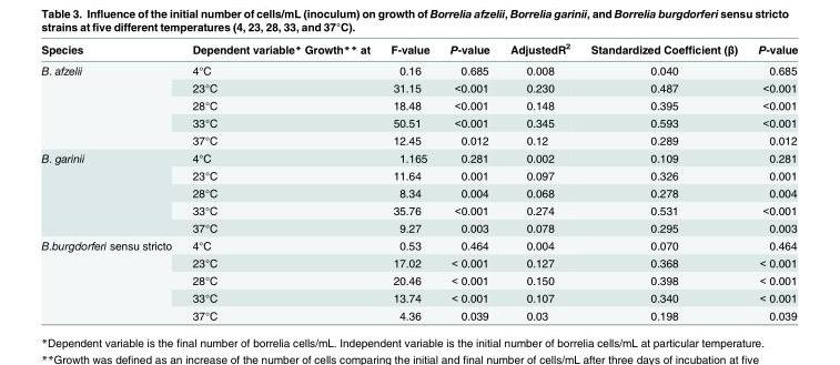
<table><thead><tr><td>Species</td><td>Dependent variable* Growth** at</td><td>F-value</td><td>P-value</td><td>AdjustedR<sup>2</sup></td><td>Standardized Coefficient (β)</td><td>P-value</td></tr></thead><tbody><tr><td rowspan="5">B. afzelii</td><td>4°C</td><td>0.16</td><td>0.685</td><td>0.008</td><td>0.040</td><td>0.685</td></tr><tr><td>23°C</td><td>31.15</td><td>&lt;0.001</td><td>0.230</td><td>0.487</td><td>&lt;0.001</td></tr><tr><td>28°C</td><td>18.48</td><td>&lt;0.001</td><td>0.148</td><td>0.395</td><td>&lt;0.001</td></tr><tr><td>33°C</td><td>50.51</td><td>&lt;0.001</td><td>0.345</td><td>0.593</td><td>&lt;0.001</td></tr><tr><td>37°C</td><td>12.45</td><td>0.012</td><td>0.12</td><td>0.289</td><td>0.012</td></tr><tr><td rowspan="5">B. garinii</td><td>4°C</td><td>1.165</td><td>0.281</td><td>0.002</td><td>0.109</td><td>0.281</td></tr><tr><td>23°C</td><td>11.64</td><td>0.001</td><td>0.097</td><td>0.326</td><td>0.001</td></tr><tr><td>28°C</td><td>8.34</td><td>0.004</td><td>0.068</td><td>0.278</td><td>0.004</td></tr><tr><td>33°C</td><td>35.76</td><td>&lt;0.001</td><td>0.274</td><td>0.531</td><td>&lt;0.001</td></tr><tr><td>37°C</td><td>9.27</td><td>0.003</td><td>0.078</td><td>0.295</td><td>0.003</td></tr><tr><td rowspan="5">B.burgdorferi sensu stricto</td><td>4°C</td><td>0.53</td><td>0.464</td><td>0.004</td><td>0.070</td><td>0.464</td></tr><tr><td>23°C</td><td>17.02</td><td>&lt; 0.001</td><td>0.127</td><td>0.368</td><td>&lt; 0.001</td></tr><tr><td>28°C</td><td>20.46</td><td>&lt; 0.001</td><td>0.150</td><td>0.398</td><td>&lt; 0.001</td></tr><tr><td>33°C</td><td>13.74</td><td>&lt; 0.001</td><td>0.107</td><td>0.340</td><td>&lt; 0.001</td></tr><tr><td>37°C</td><td>4.36</td><td>0.039</td><td>0.03</td><td>0.198</td><td>0.039</td></tr></tbody></table>